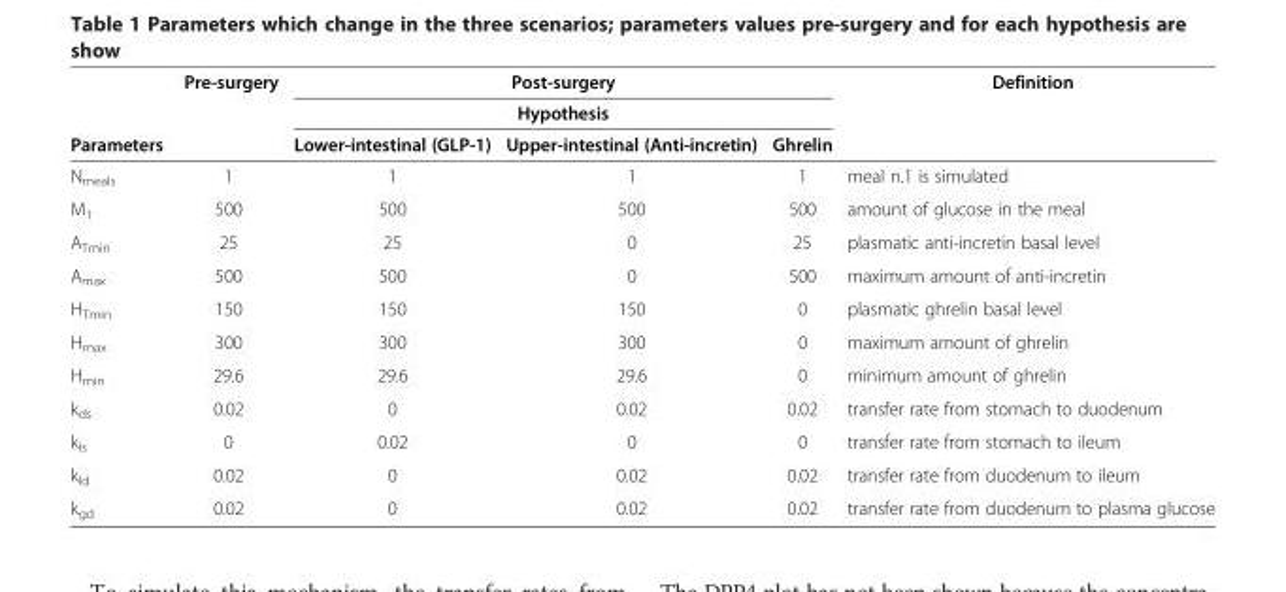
<table><thead><tr><td rowspan="3">Parameters</td><td rowspan="3">Pre-surgery</td><td rowspan="2" colspan="3">Post-surgery Hypothesis</td><td rowspan="3">Definition</td></tr><tr></tr><tr><td>Lower-intestinal (GLP-1)</td><td>Upper-intestinal (Anti-incretin)</td><td>Ghrelin</td></tr></thead><tbody><tr><td>N<sub>meals</sub></td><td>1</td><td>1</td><td>1</td><td>1</td><td>meal n.1 is simulated</td></tr><tr><td>M<sub>1</sub></td><td>500</td><td>500</td><td>500</td><td>500</td><td>amount of glucose in the meal</td></tr><tr><td>A<sub>Tmin</sub></td><td>25</td><td>25</td><td>0</td><td>25</td><td>plasmatic anti-incretin basal level</td></tr><tr><td>A<sub>max</sub></td><td>500</td><td>500</td><td>0</td><td>500</td><td>maximum amount of anti-incretin</td></tr><tr><td>H<sub>Tmin</sub></td><td>150</td><td>150</td><td>150</td><td>0</td><td>plasmatic ghrelin basal level</td></tr><tr><td>H<sub>max</sub></td><td>300</td><td>300</td><td>300</td><td>0</td><td>maximum amount of ghrelin</td></tr><tr><td>H<sub>min</sub></td><td>29.6</td><td>29.6</td><td>29.6</td><td>0</td><td>minimum amount of ghrelin</td></tr><tr><td>k<sub>ds</sub></td><td>0.02</td><td>0</td><td>0.02</td><td>0.02</td><td>transfer rate from stomach to duodenum</td></tr><tr><td>k<sub>ls</sub></td><td>0</td><td>0.02</td><td>0</td><td>0</td><td>transfer rate from stomach to ileum</td></tr><tr><td>k<sub>ld</sub></td><td>0.02</td><td>0</td><td>0.02</td><td>0.02</td><td>transfer rate from duodenum to ileum</td></tr><tr><td>k<sub>gd</sub></td><td>0.02</td><td>0</td><td>0.02</td><td>0.02</td><td>transfer rate from duodenum to plasma glucose</td></tr></tbody></table>